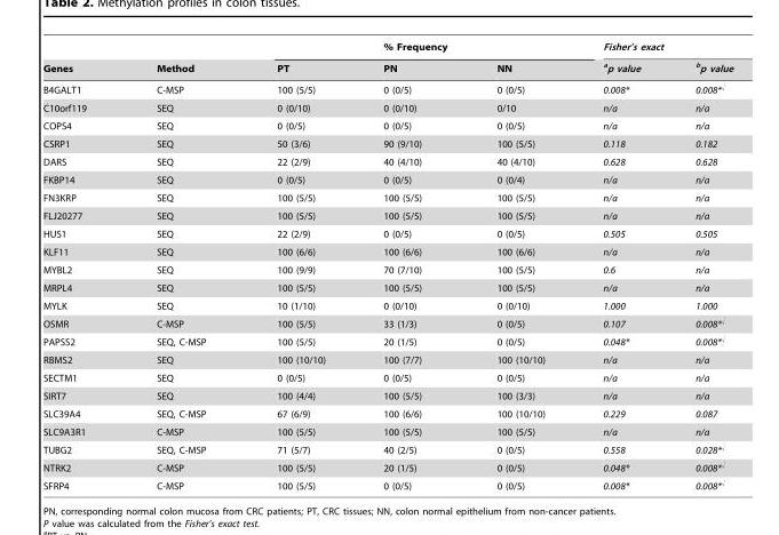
<table><thead><tr><td rowspan="2">Genes</td><td rowspan="2">Method</td><td rowspan="2">PT</td><td rowspan="2">% Frequency PN</td><td rowspan="2">NN</td><td colspan="2">Fisher’s exact</td></tr><tr><td>ap value</td><td>bp value</td></tr></thead><tbody><tr><td>B4GALT1</td><td>C-MSP</td><td>100 (5/5)</td><td>0 (0/5)</td><td>0 (0/5)</td><td>0.008*</td><td>0.008*√</td></tr><tr><td>C10orf119</td><td>SEQ</td><td>0 (0/10)</td><td>0 (0/10)</td><td>0/10</td><td>n/a</td><td>n/a</td></tr><tr><td>COPS4</td><td>SEQ</td><td>0 (0/5)</td><td>0 (0/5)</td><td>0 (0/5)</td><td>n/a</td><td>n/a</td></tr><tr><td>CSRP1</td><td>SEQ</td><td>50 (3/6)</td><td>90 (9/10)</td><td>100 (5/5)</td><td>0.118</td><td>0.182</td></tr><tr><td>DARS</td><td>SEQ</td><td>22 (2/9)</td><td>40 (4/10)</td><td>40 (4/10)</td><td>0.628</td><td>0.628</td></tr><tr><td>FKBP14</td><td>SEQ</td><td>0 (0/5)</td><td>0 (0/5)</td><td>0 (0/4)</td><td>n/a</td><td>n/a</td></tr><tr><td>FN3KRP</td><td>SEQ</td><td>100 (5/5)</td><td>100 (5/5)</td><td>100 (5/5)</td><td>n/a</td><td>n/a</td></tr><tr><td>FLJ20277</td><td>SEQ</td><td>100 (5/5)</td><td>100 (5/5)</td><td>100 (5/5)</td><td>n/a</td><td>n/a</td></tr><tr><td>HUS1</td><td>SEQ</td><td>22 (2/9)</td><td>0 (0/5)</td><td>0 (0/5)</td><td>0.505</td><td>0.505</td></tr><tr><td>KLF11</td><td>SEQ</td><td>100 (6/6)</td><td>100 (6/6)</td><td>100 (6/6)</td><td>n/a</td><td>n/a</td></tr><tr><td>MYBL2</td><td>SEQ</td><td>100 (9/9)</td><td>70 (7/10)</td><td>100 (5/5)</td><td>0.6</td><td>n/a</td></tr><tr><td>MRPL4</td><td>SEQ</td><td>100 (5/5)</td><td>100 (5/5)</td><td>100 (5/5)</td><td>n/a</td><td>n/a</td></tr><tr><td>MYLK</td><td>SEQ</td><td>10 (1/10)</td><td>0 (0/10)</td><td>0 (0/10)</td><td>1.000</td><td>1.000</td></tr><tr><td>OSMR</td><td>C-MSP</td><td>100 (5/5)</td><td>33 (1/3)</td><td>0 (0/5)</td><td>0.107</td><td>0.008*√</td></tr><tr><td>PAPSS2</td><td>SEQ, C-MSP</td><td>100 (5/5)</td><td>20 (1/5)</td><td>0 (0/5)</td><td>0.048*</td><td>0.008*√</td></tr><tr><td>RBMS2</td><td>SEQ</td><td>100 (10/10)</td><td>100 (7/7)</td><td>100 (10/10)</td><td>n/a</td><td>n/a</td></tr><tr><td>SECTM1</td><td>SEQ</td><td>0 (0/5)</td><td>0 (0/5)</td><td>0 (0/5)</td><td>n/a</td><td>n/a</td></tr><tr><td>SIRT7</td><td>SEQ</td><td>100 (4/4)</td><td>100 (5/5)</td><td>100 (3/3)</td><td>n/a</td><td>n/a</td></tr><tr><td>SLC39A4</td><td>SEQ, C-MSP</td><td>67 (6/9)</td><td>100 (6/6)</td><td>100 (10/10)</td><td>0.229</td><td>0.087</td></tr><tr><td>SLC9A3R1</td><td>C-MSP</td><td>100 (5/5)</td><td>100 (5/5)</td><td>100 (5/5)</td><td>n/a</td><td>n/a</td></tr><tr><td>TUBG2</td><td>SEQ, C-MSP</td><td>71 (5/7)</td><td>40 (2/5)</td><td>0 (0/5)</td><td>0.558</td><td>0.028*√</td></tr><tr><td>NTRK2</td><td>C-MSP</td><td>100 (5/5)</td><td>20 (1/5)</td><td>0 (0/5)</td><td>0.048*</td><td>0.008*√</td></tr><tr><td>SFRP4</td><td>C-MSP</td><td>100 (5/5)</td><td>0 (0/5)</td><td>0 (0/5)</td><td>0.008*</td><td>0.008*√</td></tr></tbody></table>